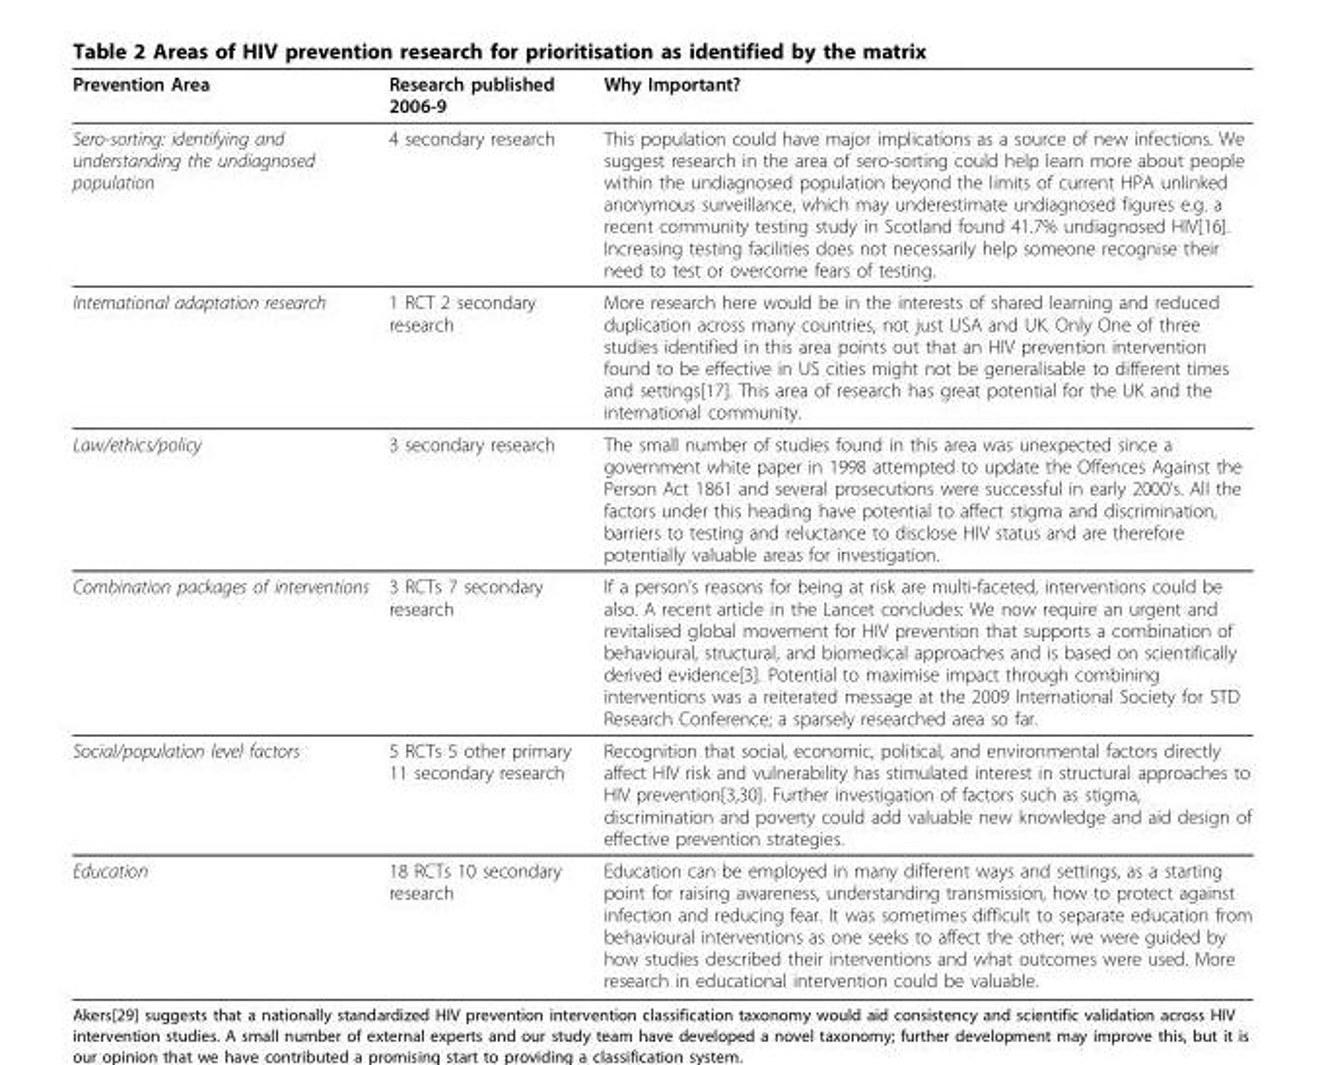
<table><thead><tr><td>Prevention Area</td><td>Research published 2006-9</td><td>Why Important?</td></tr></thead><tbody><tr><td>Sero-sorting: identifying and understanding the undiagnosed population</td><td>4 secondary research</td><td>This population could have major implications as a source of new infections. We suggest research in the area of sero-sorting could help learn more about people within the undiagnosed population beyond the limits of current HPA unlinked anonymous surveillance, which may underestimate undiagnosed figures e.g. a recent community testing study in Scotland found 41.7% undiagnosed HIV[16]. Increasing testing facilities does not necessarily help someone recognise their need to test or overcome fears of testing.</td></tr><tr><td>International adaptation research</td><td>1 RCT 2 secondary research</td><td>More research here would be in the interests of shared learning and reduced duplication across many countries, not just USA and UK. Only One of three studies identified in this area points out that an HIV prevention intervention found to be effective in US cities might not be generalisable to different times and settings[17]. This area of research has great potential for the UK and the international community.</td></tr><tr><td>Law/ethics/policy</td><td>3 secondary research</td><td>The small number of studies found in this area was unexpected since a government white paper in 1998 attempted to update the Offences Against the Person Act 1861 and several prosecutions were successful in early 2000’s. All the factors under this heading have potential to affect stigma and discrimination, barriers to testing and reluctance to disclose HIV status and are therefore potentially valuable areas for investigation.</td></tr><tr><td>Combination packages of interventions</td><td>3 RCTs 7 secondary research</td><td>If a person’s reasons for being at risk are multi-faceted, interventions could be also. A recent article in the Lancet concludes: We now require an urgent and revitalised global movement for HIV prevention that supports a combination of behavioural, structural, and biomedical approaches and is based on scientifically derived evidence[3]. Potential to maximise impact through combining interventions was a reiterated message at the 2009 International Society for STD Research Conference; a sparsely researched area so far.</td></tr><tr><td>Social/population level factors</td><td>5 RCTs 5 other primary 11 secondary research</td><td>Recognition that social, economic, political, and environmental factors directly affect HIV risk and vulnerability has stimulated interest in structural approaches to HIV prevention[3,30]. Further investigation of factors such as stigma, discrimination and poverty could add valuable new knowledge and aid design of effective prevention strategies.</td></tr><tr><td>Education</td><td>18 RCTs 10 secondary research</td><td>Education can be employed in many different ways and settings, as a starting point for raising awareness, understanding transmission, how to protect against infection and reducing fear. It was sometimes difficult to separate education from behavioural interventions as one seeks to affect the other; we were guided by how studies described their interventions and what outcomes were used. More research in educational intervention could be valuable.</td></tr></tbody></table>